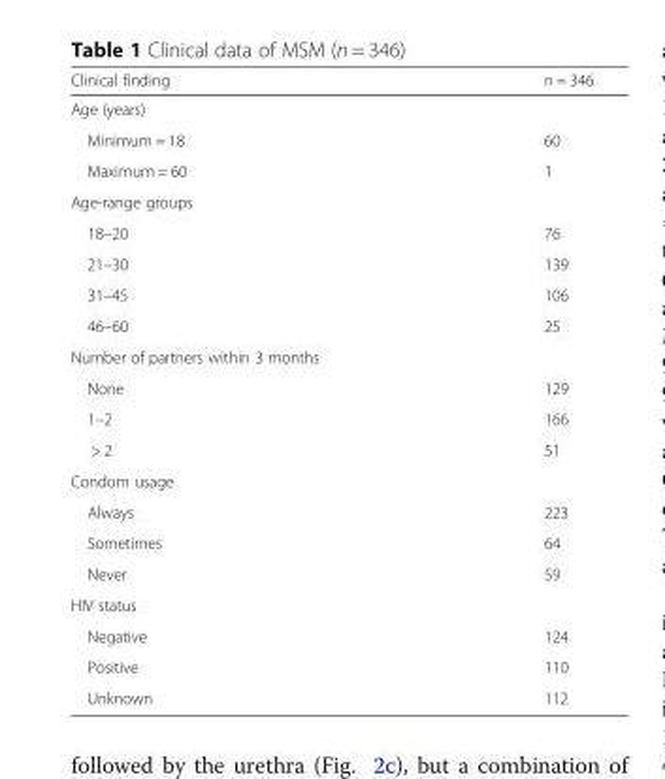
<table><thead><tr><td>Clinical finding</td><td>n = 346</td></tr></thead><tbody><tr><td colspan="2">Age (years)</td></tr><tr><td>Minimum = 18</td><td>60</td></tr><tr><td>Maximum = 60</td><td>1</td></tr><tr><td colspan="2">Age-range groups</td></tr><tr><td>18–20</td><td>76</td></tr><tr><td>21–30</td><td>139</td></tr><tr><td>31–45</td><td>106</td></tr><tr><td>46–60</td><td>25</td></tr><tr><td colspan="2">Number of partners within 3 months</td></tr><tr><td>None</td><td>129</td></tr><tr><td>1–2</td><td>166</td></tr><tr><td>&gt; 2</td><td>51</td></tr><tr><td colspan="2">Condom usage</td></tr><tr><td>Always</td><td>223</td></tr><tr><td>Sometimes</td><td>64</td></tr><tr><td>Never</td><td>59</td></tr><tr><td colspan="2">HIV status</td></tr><tr><td>Negative</td><td>124</td></tr><tr><td>Positive</td><td>110</td></tr><tr><td>Unknown</td><td>112</td></tr></tbody></table>